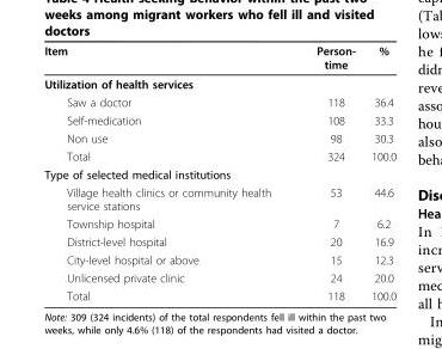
<table><thead><tr><td>Item</td><td>Person- time</td><td>%</td></tr></thead><tbody><tr><td colspan="3">Utilization of health services</td></tr><tr><td>Saw a doctor</td><td>118</td><td>36.4</td></tr><tr><td>Self-medication</td><td>108</td><td>33.3</td></tr><tr><td>Non use</td><td>98</td><td>30.3</td></tr><tr><td>Total</td><td>324</td><td>100.0</td></tr><tr><td colspan="3">Type of selected medical institutions</td></tr><tr><td>Village health clinics or community health service stations</td><td>53</td><td>44.6</td></tr><tr><td>Township hospital</td><td>7</td><td>6.2</td></tr><tr><td>District-level hospital</td><td>20</td><td>16.9</td></tr><tr><td>City-level hospital or above</td><td>15</td><td>12.3</td></tr><tr><td>Unlicensed private clinic</td><td>24</td><td>20.0</td></tr><tr><td>Total</td><td>118</td><td>100.0</td></tr></tbody></table>